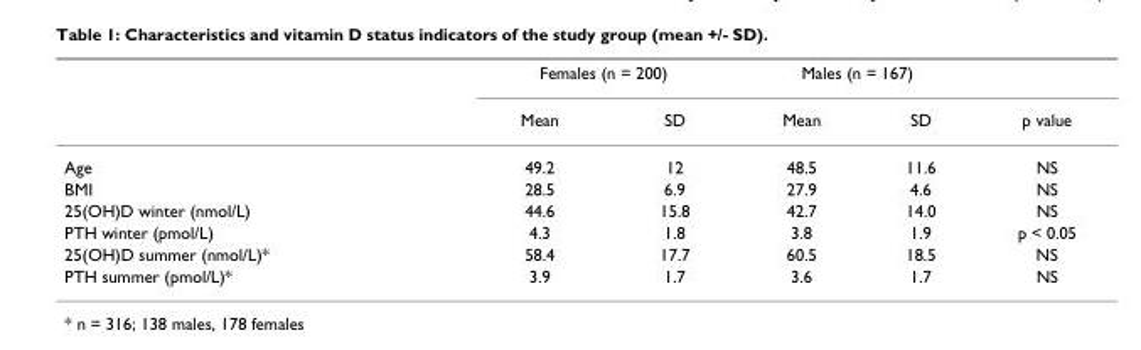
<table><thead><tr><td rowspan="2"></td><td colspan="2">Females (n = 200)</td><td colspan="2">Males (n = 167)</td><td rowspan="2">p value</td></tr><tr><td>Mean</td><td>SD</td><td>Mean</td><td>SD</td></tr></thead><tbody><tr><td>Age</td><td>49.2</td><td>12</td><td>48.5</td><td>11.6</td><td>NS</td></tr><tr><td>BMI</td><td>28.5</td><td>6.9</td><td>27.9</td><td>4.6</td><td>NS</td></tr><tr><td>25(OH)D winter (nmol/L)</td><td>44.6</td><td>15.8</td><td>42.7</td><td>14.0</td><td>NS</td></tr><tr><td>PTH winter (pmol/L)</td><td>4.3</td><td>1.8</td><td>3.8</td><td>1.9</td><td>p &lt; 0.05</td></tr><tr><td>25(OH)D summer (nmol/L)*</td><td>58.4</td><td>17.7</td><td>60.5</td><td>18.5</td><td>NS</td></tr><tr><td>PTH summer (pmol/L)*</td><td>3.9</td><td>1.7</td><td>3.6</td><td>1.7</td><td>NS</td></tr></tbody></table>